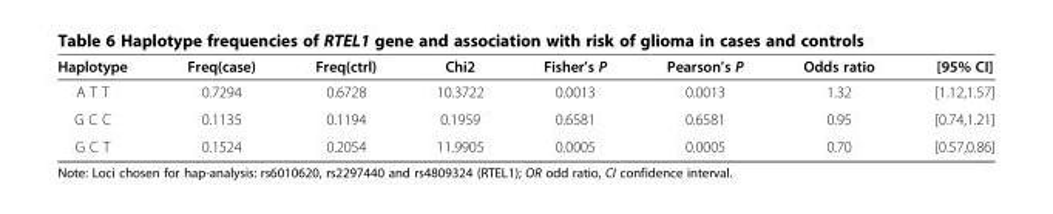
<table><thead><tr><td>Haplotype</td><td>Freq(case)</td><td>Freq(ctrl)</td><td>Chi2</td><td>Fisher’s P</td><td>Pearson’s P</td><td>Odds ratio</td><td>[95% CI]</td></tr></thead><tbody><tr><td>A T T</td><td>0.7294</td><td>0.6728</td><td>10.3722</td><td>0.0013</td><td>0.0013</td><td>1.32</td><td>[1.12,1.57]</td></tr><tr><td>G C C</td><td>0.1135</td><td>0.1194</td><td>0.1959</td><td>0.6581</td><td>0.6581</td><td>0.95</td><td>[0.74,1.21]</td></tr><tr><td>G C T</td><td>0.1524</td><td>0.2054</td><td>11.9905</td><td>0.0005</td><td>0.0005</td><td>0.70</td><td>[0.57,0.86]</td></tr></tbody></table>